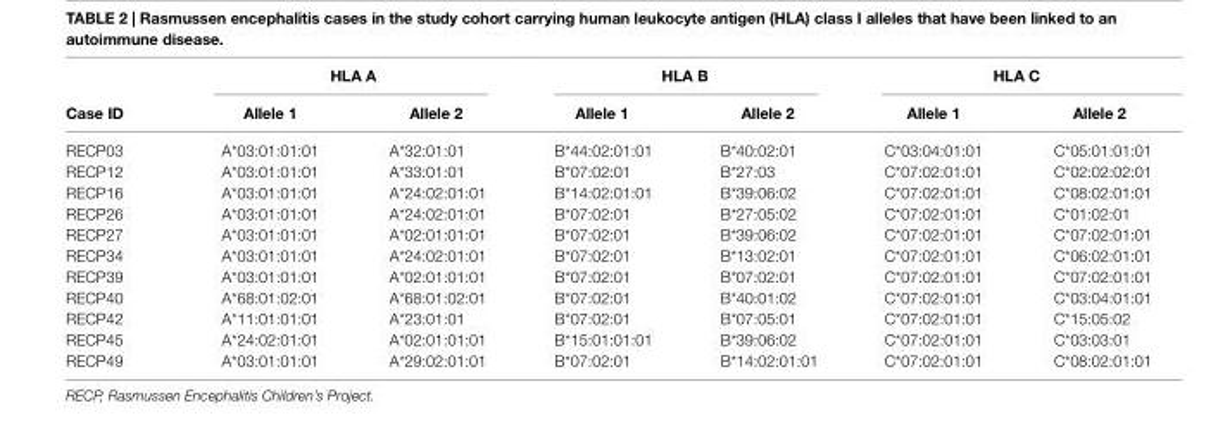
<table><thead><tr><td rowspan="2">case iD</td><td colspan="2">hla a</td><td colspan="2">hla B</td><td colspan="2">hla c</td></tr><tr><td>allele 1</td><td>allele 2</td><td>allele 1</td><td>allele 2</td><td>allele 1</td><td>allele 2</td></tr></thead><tbody><tr><td>RECP03</td><td>A*03:01:01:01</td><td>A*32:01:01</td><td>B*44:02:01:01</td><td>B*40:02:01</td><td>C*03:04:01:01</td><td>C*05:01:01:01</td></tr><tr><td>RECP12</td><td>A*03:01:01:01</td><td>A*33:01:01</td><td>B*07:02:01</td><td>B*27:03</td><td>C*07:02:01:01</td><td>C*02:02:02:01</td></tr><tr><td>RECP16</td><td>A*03:01:01:01</td><td>A*24:02:01:01</td><td>B*14:02:01:01</td><td>B*39:06:02</td><td>C*07:02:01:01</td><td>C*08:02:01:01</td></tr><tr><td>RECP26</td><td>A*03:01:01:01</td><td>A*24:02:01:01</td><td>B*07:02:01</td><td>B*27:05:02</td><td>C*07:02:01:01</td><td>C*01:02:01</td></tr><tr><td>RECP27</td><td>A*03:01:01:01</td><td>A*02:01:01:01</td><td>B*07:02:01</td><td>B*39:06:02</td><td>C*07:02:01:01</td><td>C*07:02:01:01</td></tr><tr><td>RECP34</td><td>A*03:01:01:01</td><td>A*24:02:01:01</td><td>B*07:02:01</td><td>B*13:02:01</td><td>C*07:02:01:01</td><td>C*06:02:01:01</td></tr><tr><td>RECP39</td><td>A*03:01:01:01</td><td>A*02:01:01:01</td><td>B*07:02:01</td><td>B*07:02:01</td><td>C*07:02:01:01</td><td>C*07:02:01:01</td></tr><tr><td>RECP40</td><td>A*68:01:02:01</td><td>A*68:01:02:01</td><td>B*07:02:01</td><td>B*40:01:02</td><td>C*07:02:01:01</td><td>C*03:04:01:01</td></tr><tr><td>RECP42</td><td>A*11:01:01:01</td><td>A*23:01:01</td><td>B*07:02:01</td><td>B*07:05:01</td><td>C*07:02:01:01</td><td>C*15:05:02</td></tr><tr><td>RECP45</td><td>A*24:02:01:01</td><td>A*02:01:01:01</td><td>B*15:01:01:01</td><td>B*39:06:02</td><td>C*07:02:01:01</td><td>C*03:03:01</td></tr><tr><td>RECP49</td><td>A*03:01:01:01</td><td>A*29:02:01:01</td><td>B*07:02:01</td><td>B*14:02:01:01</td><td>C*07:02:01:01</td><td>C*08:02:01:01</td></tr></tbody></table>